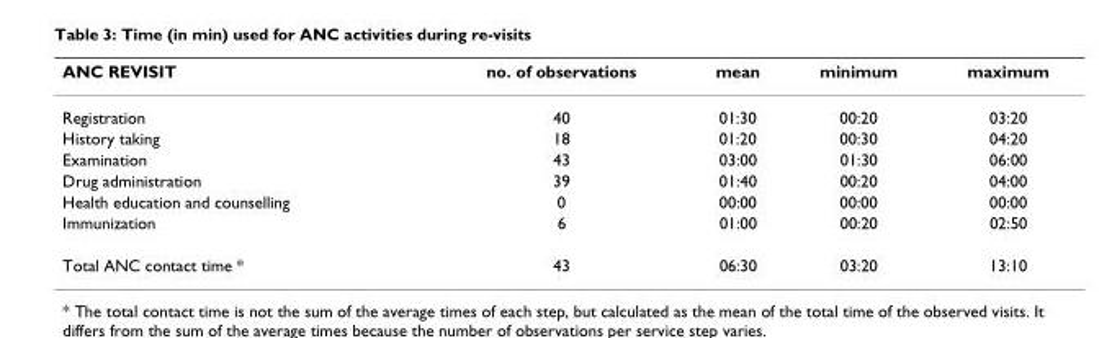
<table><thead><tr><td>ANC REVISIT</td><td>no. of observations</td><td>mean</td><td>minimum</td><td>maximum</td></tr></thead><tbody><tr><td>Registration</td><td>40</td><td>01:30</td><td>00:20</td><td>03:20</td></tr><tr><td>History taking</td><td>18</td><td>01:20</td><td>00:30</td><td>04:20</td></tr><tr><td>Examination</td><td>43</td><td>03:00</td><td>01:30</td><td>06:00</td></tr><tr><td>Drug administration</td><td>39</td><td>01:40</td><td>00:20</td><td>04:00</td></tr><tr><td>Health education and counselling</td><td>0</td><td>00:00</td><td>00:00</td><td>00:00</td></tr><tr><td>Immunization</td><td>6</td><td>01:00</td><td>00:20</td><td>02:50</td></tr><tr><td>Total ANC contact time *</td><td>43</td><td>06:30</td><td>03:20</td><td>13:10</td></tr></tbody></table>